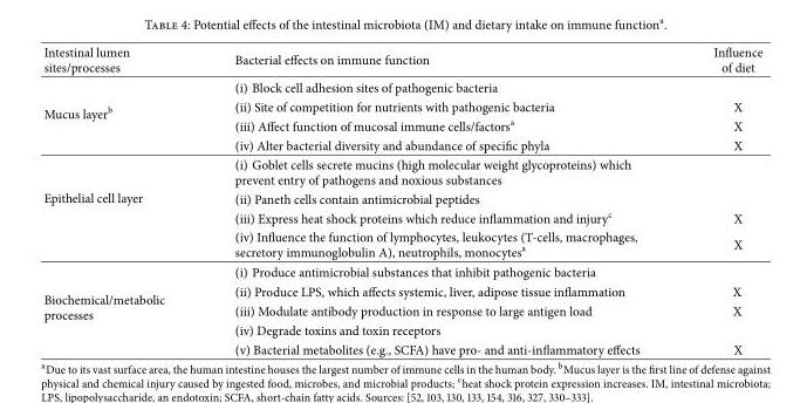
<table><thead><tr><td>Intestinal lumen sites/processes</td><td>Bacterial effects on immune function</td><td>Influence of diet</td></tr></thead><tbody><tr><td rowspan="4">Mucus layer<sup>b</sup></td><td>(i) Block cell adhesion sites of pathogenic bacteria</td><td></td></tr><tr><td>(ii) Site of competition for nutrients with pathogenic bacteria</td><td>X</td></tr><tr><td>(iii) Affect function of mucosal immune cells/factors<sup>a</sup></td><td>X</td></tr><tr><td>(iv) Alter bacterial diversity and abundance of specific phyla</td><td>X</td></tr><tr><td rowspan="4">Epithelial cell layer</td><td>(i) Goblet cells secrete mucins (high molecular weight glycoproteins) which prevent entry of pathogens and noxious substances</td><td></td></tr><tr><td>(ii) Paneth cells contain antimicrobial peptides</td><td></td></tr><tr><td>(iii) Express heat shock proteins which reduce inflammation and injury<sup>c</sup></td><td>X</td></tr><tr><td>(iv) Influence the function of lymphocytes, leukocytes (T-cells, macrophages, secretory immunoglobulin A), neutrophils, monocytes<sup>a</sup></td><td>X</td></tr><tr><td rowspan="5">Biochemical/metabolic processes</td><td>(i) Produce antimicrobial substances that inhibit pathogenic bacteria</td><td></td></tr><tr><td>(ii) Produce LPS, which affects systemic, liver, adipose tissue inflammation</td><td>X</td></tr><tr><td>(iii) Modulate antibody production in response to large antigen load</td><td>X</td></tr><tr><td>(iv) Degrade toxins and toxin receptors</td><td></td></tr><tr><td>(v) Bacterial metabolites (e.g., SCFA) have pro- and anti-inflammatory effects</td><td>X</td></tr></tbody></table>